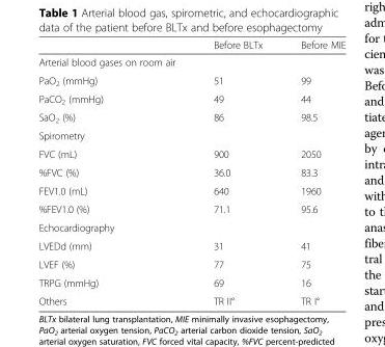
<table><thead><tr><td></td><td>Before BLTx</td><td>Before MIE</td></tr></thead><tbody><tr><td colspan="3">Arterial blood gases on room air</td></tr><tr><td>PaO<sub>2</sub> (mmHg)</td><td>51</td><td>99</td></tr><tr><td>PaCO<sub>2</sub> (mmHg)</td><td>49</td><td>44</td></tr><tr><td>SaO<sub>2</sub> (%)</td><td>86</td><td>98.5</td></tr><tr><td colspan="3">Spirometry</td></tr><tr><td>FVC (mL)</td><td>900</td><td>2050</td></tr><tr><td>%FVC (%)</td><td>36.0</td><td>83.3</td></tr><tr><td>FEV1.0 (mL)</td><td>640</td><td>1960</td></tr><tr><td>%FEV1.0 (%)</td><td>71.1</td><td>95.6</td></tr><tr><td colspan="3">Echocardiography</td></tr><tr><td>LVEDd (mm)</td><td>31</td><td>41</td></tr><tr><td>LVEF (%)</td><td>77</td><td>75</td></tr><tr><td>TRPG (mmHg)</td><td>69</td><td>16</td></tr><tr><td>Others</td><td>TR II°</td><td>TR I°</td></tr></tbody></table>